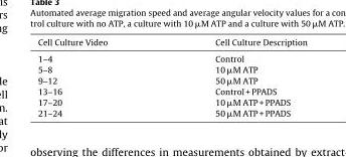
<table><thead><tr><td>Cell Culture Video</td><td>Cell Culture Description</td></tr></thead><tbody><tr><td>1–4</td><td>Control</td></tr><tr><td>5–8</td><td>10 μM ATP</td></tr><tr><td>9–12</td><td>50 μM ATP</td></tr><tr><td>13–16</td><td>Control + PPADS</td></tr><tr><td>17–20</td><td>10 μM ATP + PPADS</td></tr><tr><td>21–24</td><td>50 μM ATP + PPADS</td></tr></tbody></table>